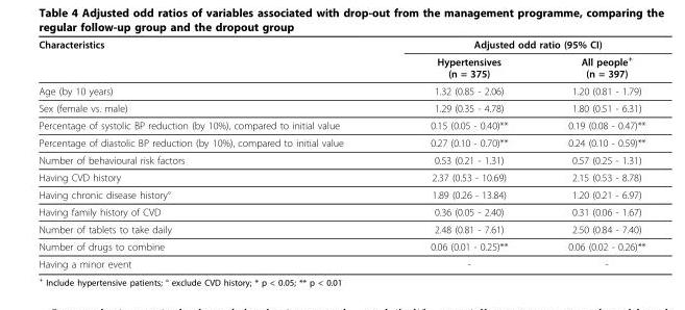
<table><thead><tr><td rowspan="2">Characteristics</td><td colspan="2">Adjusted odd ratio (95% CI)</td></tr><tr><td>Hypertensives (n = 375)</td><td>All people<sup>+</sup> (n = 397)</td></tr></thead><tbody><tr><td>Age (by 10 years)</td><td>1.32 (0.85 - 2.06)</td><td>1.20 (0.81 - 1.79)</td></tr><tr><td>Sex (female vs. male)</td><td>1.29 (0.35 - 4.78)</td><td>1.80 (0.51 - 6.31)</td></tr><tr><td>Percentage of systolic BP reduction (by 10%), compared to initial value</td><td>0.15 (0.05 - 0.40)**</td><td>0.19 (0.08 - 0.47)**</td></tr><tr><td>Percentage of diastolic BP reduction (by 10%), compared to initial value</td><td>0.27 (0.10 - 0.70)**</td><td>0.24 (0.10 - 0.59)**</td></tr><tr><td>Number of behavioural risk factors</td><td>0.53 (0.21 - 1.31)</td><td>0.57 (0.25 - 1.31)</td></tr><tr><td>Having CVD history</td><td>2.37 (0.53 - 10.69)</td><td>2.15 (0.53 - 8.78)</td></tr><tr><td>Having chronic disease history°</td><td>1.89 (0.26 - 13.84)</td><td>1.20 (0.21 - 6.97)</td></tr><tr><td>Having family history of CVD</td><td>0.36 (0.05 - 2.40)</td><td>0.31 (0.06 - 1.67)</td></tr><tr><td>Number of tablets to take daily</td><td>2.48 (0.81 - 7.61)</td><td>2.50 (0.84 - 7.40)</td></tr><tr><td>Number of drugs to combine</td><td>0.06 (0.01 - 0.25)**</td><td>0.06 (0.02 - 0.26)**</td></tr><tr><td>Having a minor event</td><td>-</td><td>-</td></tr></tbody></table>